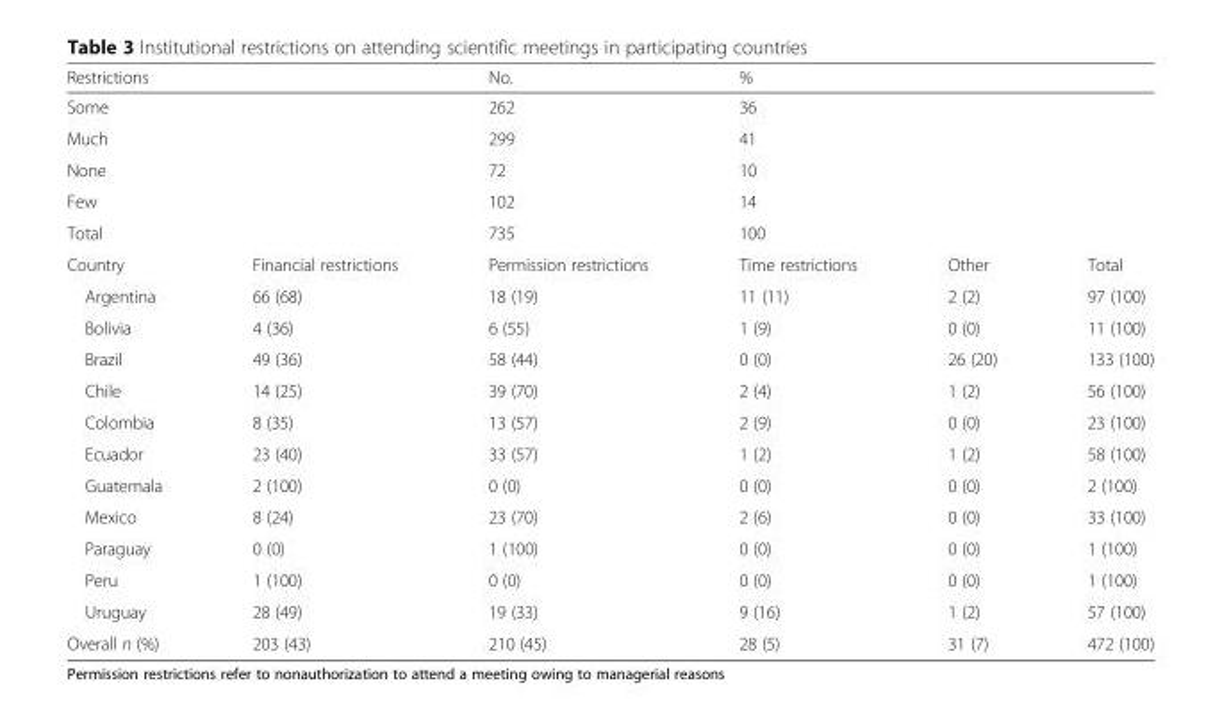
<table><thead><tr><td colspan="2">Restrictions</td><td>No.</td><td colspan="3">%</td></tr></thead><tbody><tr><td colspan="2">Some</td><td>262</td><td colspan="3">36</td></tr><tr><td colspan="2">Much</td><td>299</td><td colspan="3">41</td></tr><tr><td colspan="2">None</td><td>72</td><td colspan="3">10</td></tr><tr><td colspan="2">Few</td><td>102</td><td colspan="3">14</td></tr><tr><td colspan="2">Total</td><td>735</td><td colspan="3">100</td></tr><tr><td>Country</td><td>Financial restrictions</td><td>Permission restrictions</td><td>Time restrictions</td><td>Other</td><td>Total</td></tr><tr><td>Argentina</td><td>66 (68)</td><td>18 (19)</td><td>11 (11)</td><td>2 (2)</td><td>97 (100)</td></tr><tr><td>Bolivia</td><td>4 (36)</td><td>6 (55)</td><td>1 (9)</td><td>0 (0)</td><td>11 (100)</td></tr><tr><td>Brazil</td><td>49 (36)</td><td>58 (44)</td><td>0 (0)</td><td>26 (20)</td><td>133 (100)</td></tr><tr><td>Chile</td><td>14 (25)</td><td>39 (70)</td><td>2 (4)</td><td>1 (2)</td><td>56 (100)</td></tr><tr><td>Colombia</td><td>8 (35)</td><td>13 (57)</td><td>2 (9)</td><td>0 (0)</td><td>23 (100)</td></tr><tr><td>Ecuador</td><td>23 (40)</td><td>33 (57)</td><td>1 (2)</td><td>1 (2)</td><td>58 (100)</td></tr><tr><td>Guatemala</td><td>2 (100)</td><td>0 (0)</td><td>0 (0)</td><td>0 (0)</td><td>2 (100)</td></tr><tr><td>Mexico</td><td>8 (24)</td><td>23 (70)</td><td>2 (6)</td><td>0 (0)</td><td>33 (100)</td></tr><tr><td>Paraguay</td><td>0 (0)</td><td>1 (100)</td><td>0 (0)</td><td>0 (0)</td><td>1 (100)</td></tr><tr><td>Peru</td><td>1 (100)</td><td>0 (0)</td><td>0 (0)</td><td>0 (0)</td><td>1 (100)</td></tr><tr><td>Uruguay</td><td>28 (49)</td><td>19 (33)</td><td>9 (16)</td><td>1 (2)</td><td>57 (100)</td></tr><tr><td>Overall n (%)</td><td>203 (43)</td><td>210 (45)</td><td>28 (5)</td><td>31 (7)</td><td>472 (100)</td></tr></tbody></table>